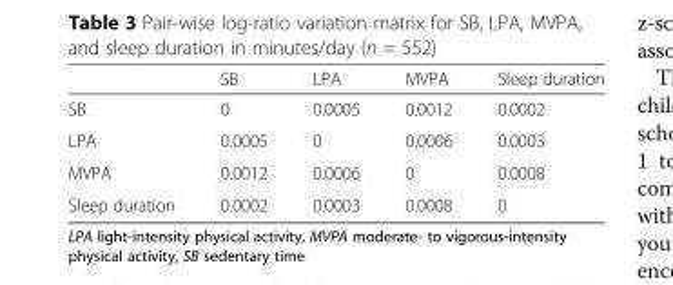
<table><thead><tr><td></td><td>SB</td><td>LPA</td><td>MVPA</td><td>Sleep duration</td></tr></thead><tbody><tr><td>SB</td><td>0</td><td>0.0005</td><td>0.0012</td><td>0.0002</td></tr><tr><td>LPA</td><td>0.0005</td><td>0</td><td>0.0006</td><td>0.0003</td></tr><tr><td>MVPA</td><td>0.0012</td><td>0.0006</td><td>0</td><td>0.0008</td></tr><tr><td>Sleep duration</td><td>0.0002</td><td>0.0003</td><td>0.0008</td><td>0</td></tr></tbody></table>